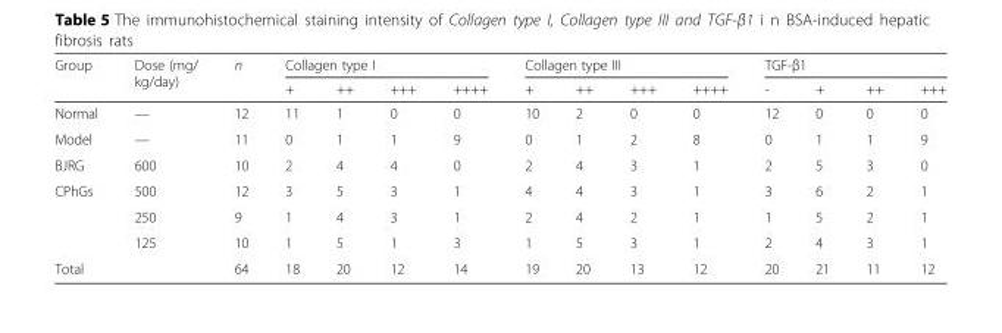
<table><thead><tr><td rowspan="2">Group</td><td rowspan="2">Dose (mg/ kg/day)</td><td rowspan="2">n</td><td colspan="4">Collagen type I</td><td colspan="4">Collagen type III</td><td colspan="4">TGF-β1</td></tr><tr><td>+</td><td>++</td><td>+++</td><td>++++</td><td>+</td><td>++</td><td>+++</td><td>++++</td><td>-</td><td>+</td><td>++</td><td>+++</td></tr></thead><tbody><tr><td>Normal</td><td>—</td><td>12</td><td>11</td><td>1</td><td>0</td><td>0</td><td>10</td><td>2</td><td>0</td><td>0</td><td>12</td><td>0</td><td>0</td><td>0</td></tr><tr><td>Model</td><td>—</td><td>11</td><td>0</td><td>1</td><td>1</td><td>9</td><td>0</td><td>1</td><td>2</td><td>8</td><td>0</td><td>1</td><td>1</td><td>9</td></tr><tr><td>BJRG</td><td>600</td><td>10</td><td>2</td><td>4</td><td>4</td><td>0</td><td>2</td><td>4</td><td>3</td><td>1</td><td>2</td><td>5</td><td>3</td><td>0</td></tr><tr><td rowspan="3">CPhGs</td><td>500</td><td>12</td><td>3</td><td>5</td><td>3</td><td>1</td><td>4</td><td>4</td><td>3</td><td>1</td><td>3</td><td>6</td><td>2</td><td>1</td></tr><tr><td>250</td><td>9</td><td>1</td><td>4</td><td>3</td><td>1</td><td>2</td><td>4</td><td>2</td><td>1</td><td>1</td><td>5</td><td>2</td><td>1</td></tr><tr><td>125</td><td>10</td><td>1</td><td>5</td><td>1</td><td>3</td><td>1</td><td>5</td><td>3</td><td>1</td><td>2</td><td>4</td><td>3</td><td>1</td></tr><tr><td colspan="2">Total</td><td>64</td><td>18</td><td>20</td><td>12</td><td>14</td><td>19</td><td>20</td><td>13</td><td>12</td><td>20</td><td>21</td><td>11</td><td>12</td></tr></tbody></table>